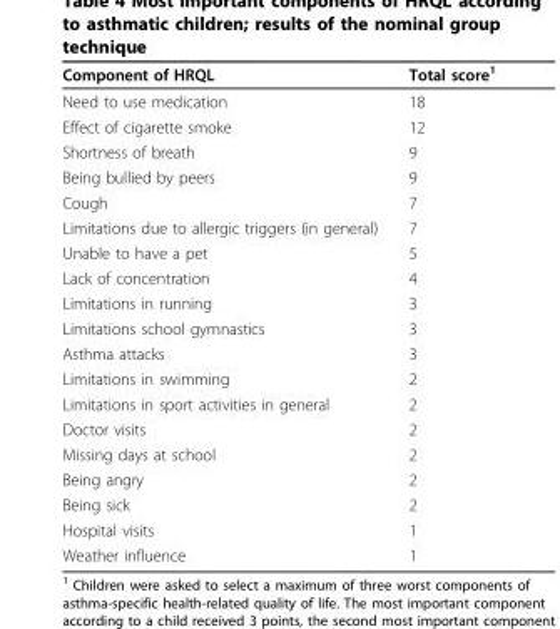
<table><thead><tr><td>Component of HRQL</td><td>Total score<sup>1</sup></td></tr></thead><tbody><tr><td>Need to use medication</td><td>18</td></tr><tr><td>Effect of cigarette smoke</td><td>12</td></tr><tr><td>Shortness of breath</td><td>9</td></tr><tr><td>Being bullied by peers</td><td>9</td></tr><tr><td>Cough</td><td>7</td></tr><tr><td>Limitations due to allergic triggers (in general)</td><td>7</td></tr><tr><td>Unable to have a pet</td><td>5</td></tr><tr><td>Lack of concentration</td><td>4</td></tr><tr><td>Limitations in running</td><td>3</td></tr><tr><td>Limitations school gymnastics</td><td>3</td></tr><tr><td>Asthma attacks</td><td>3</td></tr><tr><td>Limitations in swimming</td><td>2</td></tr><tr><td>Limitations in sport activities in general</td><td>2</td></tr><tr><td>Doctor visits</td><td>2</td></tr><tr><td>Missing days at school</td><td>2</td></tr><tr><td>Being angry</td><td>2</td></tr><tr><td>Being sick</td><td>2</td></tr><tr><td>Hospital visits</td><td>1</td></tr><tr><td>Weather influence</td><td>1</td></tr></tbody></table>